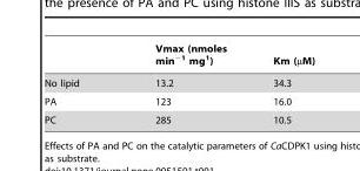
<table><thead><tr><td></td><td>Vmax (nmoles min<sup>−1</sup> mg<sup>1</sup>)</td><td>Km (µM)</td></tr></thead><tbody><tr><td>No lipid</td><td>13.2</td><td>34.3</td></tr><tr><td>PA</td><td>123</td><td>16.0</td></tr><tr><td>PC</td><td>285</td><td>10.5</td></tr></tbody></table>